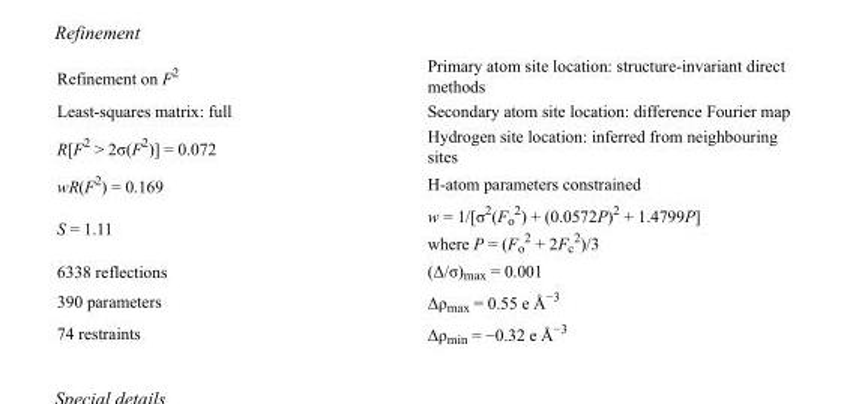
<table><tbody><tr><td>Refinement on F<sup>2</sup></td><td>Primary atom site location: structure-invariant direct methods</td></tr><tr><td>Least-squares matrix: full</td><td>Secondary atom site location: difference Fourier map</td></tr><tr><td>R[F<sup>2</sup> &gt; 2σ(F<sup>2</sup>)] = 0.072</td><td>Hydrogen site location: inferred from neighbouring sites</td></tr><tr><td>wR(F<sup>2</sup>) = 0.169</td><td>H-atom parameters constrained</td></tr><tr><td>S = 1.11</td><td>w = 1/[σ<sup>2</sup>(F<sub>o</sub> <sup>2</sup>) + (0.0572P)<sup>2</sup> + 1.4799P] where P = (F<sub>o</sub> <sup>2</sup> + 2F<sub>c</sub> <sup>2</sup>)/3</td></tr><tr><td>6338 reflections</td><td>(Δ/σ)<sub>max</sub> = 0.001</td></tr><tr><td>390 parameters</td><td>Δρ<sub>max</sub> = 0.55 e Å<sup>−3</sup></td></tr><tr><td>74 restraints</td><td>Δρ<sub>min</sub> = −0.32 e Å<sup>−3</sup></td></tr></tbody></table>